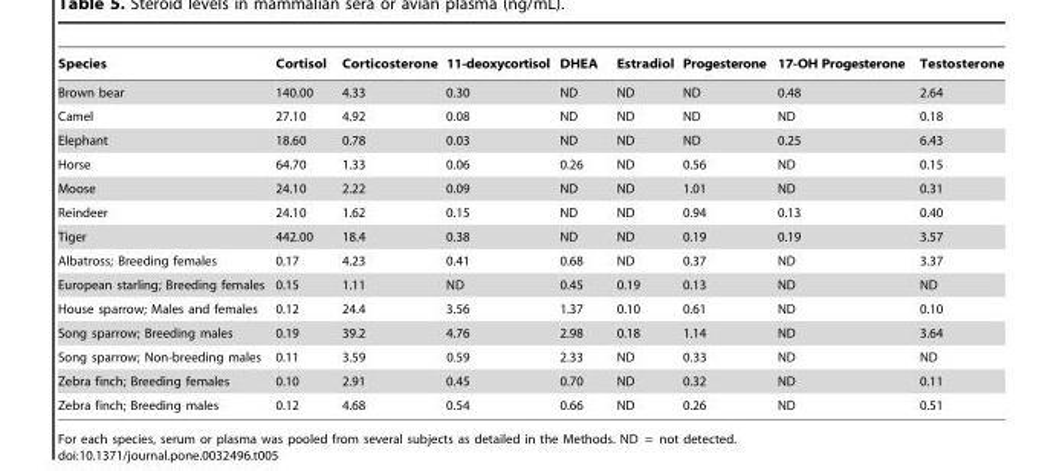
<table><thead><tr><td>Species</td><td>Cortisol</td><td>Corticosterone</td><td>11-deoxycortisol</td><td>DHEA</td><td>Estradiol</td><td>Progesterone</td><td>17-OH Progesterone</td><td>Testosterone</td></tr></thead><tbody><tr><td>Brown bear</td><td>140.00</td><td>4.33</td><td>0.30</td><td>ND</td><td>ND</td><td>ND</td><td>0.48</td><td>2.64</td></tr><tr><td>Camel</td><td>27.10</td><td>4.92</td><td>0.08</td><td>ND</td><td>ND</td><td>ND</td><td>ND</td><td>0.18</td></tr><tr><td>Elephant</td><td>18.60</td><td>0.78</td><td>0.03</td><td>ND</td><td>ND</td><td>ND</td><td>0.25</td><td>6.43</td></tr><tr><td>Horse</td><td>64.70</td><td>1.33</td><td>0.06</td><td>0.26</td><td>ND</td><td>0.56</td><td>ND</td><td>0.15</td></tr><tr><td>Moose</td><td>24.10</td><td>2.22</td><td>0.09</td><td>ND</td><td>ND</td><td>1.01</td><td>ND</td><td>0.31</td></tr><tr><td>Reindeer</td><td>24.10</td><td>1.62</td><td>0.15</td><td>ND</td><td>ND</td><td>0.94</td><td>0.13</td><td>0.40</td></tr><tr><td>Tiger</td><td>442.00</td><td>18.4</td><td>0.38</td><td>ND</td><td>ND</td><td>0.19</td><td>0.19</td><td>3.57</td></tr><tr><td>Albatross; Breeding females</td><td>0.17</td><td>4.23</td><td>0.41</td><td>0.68</td><td>ND</td><td>0.37</td><td>ND</td><td>3.37</td></tr><tr><td>European starling; Breeding females</td><td>0.15</td><td>1.11</td><td>ND</td><td>0.45</td><td>0.19</td><td>0.13</td><td>ND</td><td>ND</td></tr><tr><td>House sparrow; Males and females</td><td>0.12</td><td>24.4</td><td>3.56</td><td>1.37</td><td>0.10</td><td>0.61</td><td>ND</td><td>0.10</td></tr><tr><td>Song sparrow; Breeding males</td><td>0.19</td><td>39.2</td><td>4.76</td><td>2.98</td><td>0.18</td><td>1.14</td><td>ND</td><td>3.64</td></tr><tr><td>Song sparrow; Non-breeding males</td><td>0.11</td><td>3.59</td><td>0.59</td><td>2.33</td><td>ND</td><td>0.33</td><td>ND</td><td>ND</td></tr><tr><td>Zebra finch; Breeding females</td><td>0.10</td><td>2.91</td><td>0.45</td><td>0.70</td><td>ND</td><td>0.32</td><td>ND</td><td>0.11</td></tr><tr><td>Zebra finch; Breeding males</td><td>0.12</td><td>4.68</td><td>0.54</td><td>0.66</td><td>ND</td><td>0.26</td><td>ND</td><td>0.51</td></tr></tbody></table>